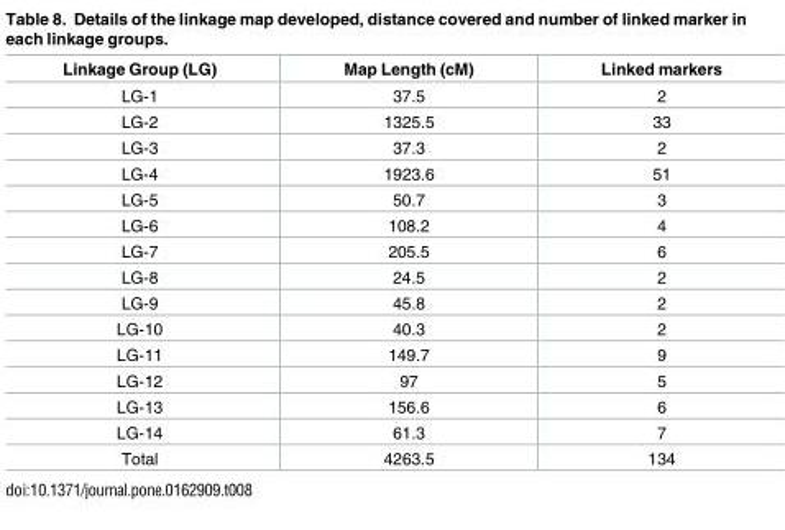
<table><thead><tr><td>Linkage Group (LG)</td><td>Map Length (cM)</td><td>Linked markers</td></tr></thead><tbody><tr><td>LG-1</td><td>37.5</td><td>2</td></tr><tr><td>LG-2</td><td>1325.5</td><td>33</td></tr><tr><td>LG-3</td><td>37.3</td><td>2</td></tr><tr><td>LG-4</td><td>1923.6</td><td>51</td></tr><tr><td>LG-5</td><td>50.7</td><td>3</td></tr><tr><td>LG-6</td><td>108.2</td><td>4</td></tr><tr><td>LG-7</td><td>205.5</td><td>6</td></tr><tr><td>LG-8</td><td>24.5</td><td>2</td></tr><tr><td>LG-9</td><td>45.8</td><td>2</td></tr><tr><td>LG-10</td><td>40.3</td><td>2</td></tr><tr><td>LG-11</td><td>149.7</td><td>9</td></tr><tr><td>LG-12</td><td>97</td><td>5</td></tr><tr><td>LG-13</td><td>156.6</td><td>6</td></tr><tr><td>LG-14</td><td>61.3</td><td>7</td></tr><tr><td>Total</td><td>4263.5</td><td>134</td></tr></tbody></table>